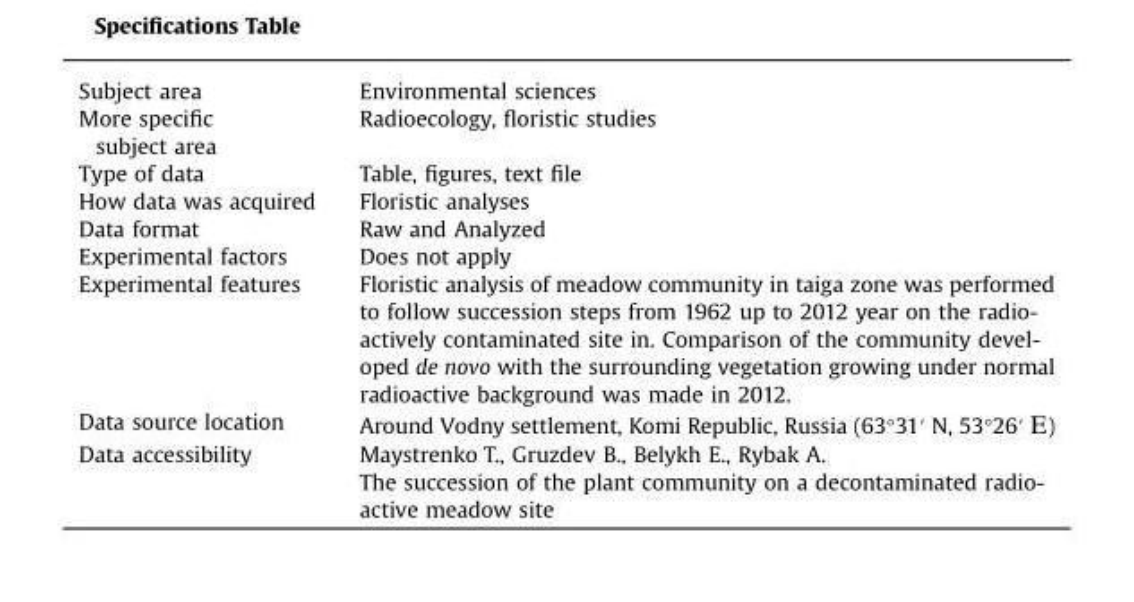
<table><tbody><tr><td>Subject area</td><td>Environmental sciences</td></tr><tr><td>More specific subject area</td><td>Radioecology, floristic studies</td></tr><tr><td>Type of data</td><td>Table, figures, text file</td></tr><tr><td>How data was acquired</td><td>Floristic analyses</td></tr><tr><td>Data format</td><td>Raw and Analyzed</td></tr><tr><td>Experimental factors</td><td>Does not apply</td></tr><tr><td>Experimental features</td><td>Floristic analysis of meadow community in taiga zone was performed to follow succession steps from 1962 up to 2012 year on the radio- actively contaminated site in. Comparison of the community devel- oped de novo with the surrounding vegetation growing under normal radioactive background was made in 2012.</td></tr><tr><td>Data source location</td><td>Around Vodny settlement, Komi Republic, Russia (63°31′ N, 53°26′ Е)</td></tr><tr><td rowspan="2">Data accessibility</td><td>Maystrenko T., Gruzdev B., Belykh E., Rybak A.</td></tr><tr><td>The succession of the plant community on a decontaminated radio- active meadow site</td></tr></tbody></table>